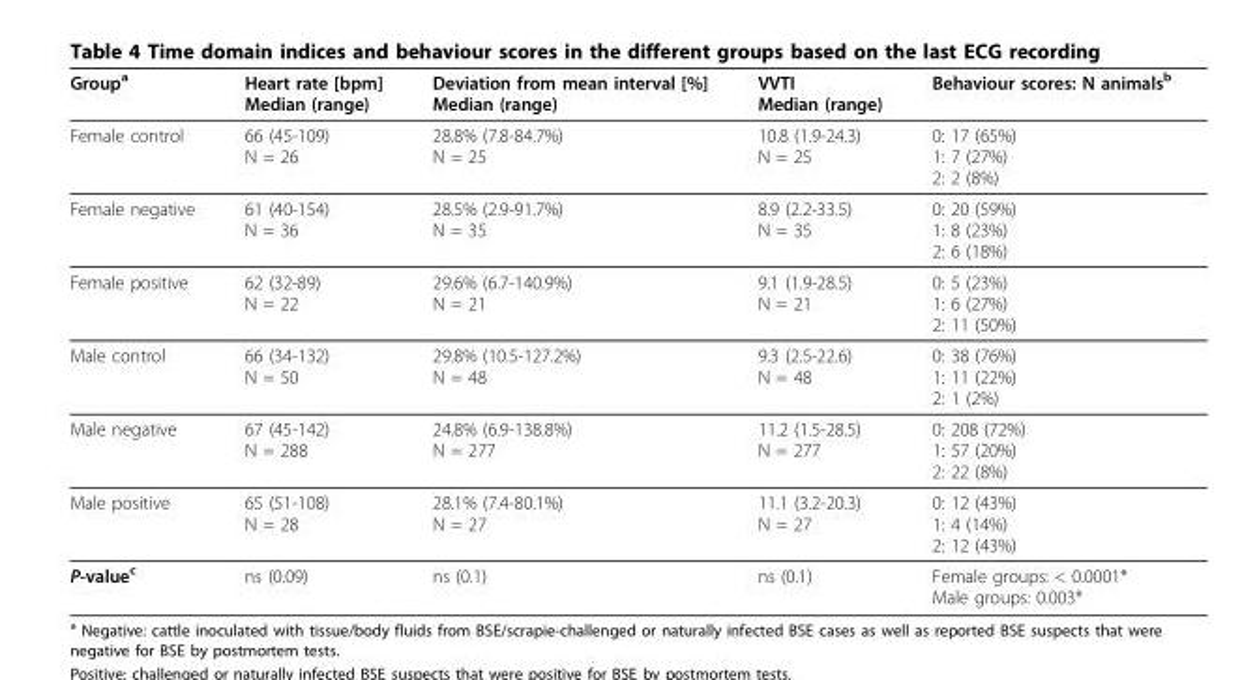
<table><thead><tr><td>Group<sup>a</sup></td><td>Heart rate [bpm] Median (range)</td><td>Deviation from mean interval [%] Median (range)</td><td>VVTI Median (range)</td><td>Behaviour scores: N animals<sup>b</sup></td></tr></thead><tbody><tr><td>Female control</td><td>66 (45-109) N = 26</td><td>28.8% (7.8-84.7%) N = 25</td><td>10.8 (1.9-24.3) N = 25</td><td>0: 17 (65%) 1: 7 (27%) 2: 2 (8%)</td></tr><tr><td>Female negative</td><td>61 (40-154) N = 36</td><td>28.5% (2.9-91.7%) N = 35</td><td>8.9 (2.2-33.5) N = 35</td><td>0: 20 (59%) 1: 8 (23%) 2: 6 (18%)</td></tr><tr><td>Female positive</td><td>62 (32-89) N = 22</td><td>29.6% (6.7-140.9%) N = 21</td><td>9.1 (1.9-28.5) N = 21</td><td>0: 5 (23%) 1: 6 (27%) 2: 11 (50%)</td></tr><tr><td>Male control</td><td>66 (34-132) N = 50</td><td>29.8% (10.5-127.2%) N = 48</td><td>9.3 (2.5-22.6) N = 48</td><td>0: 38 (76%) 1: 11 (22%) 2: 1 (2%)</td></tr><tr><td>Male negative</td><td>67 (45-142) N = 288</td><td>24.8% (6.9-138.8%) N = 277</td><td>11.2 (1.5-28.5) N = 277</td><td>0: 208 (72%) 1: 57 (20%) 2: 22 (8%)</td></tr><tr><td>Male positive</td><td>65 (51-108) N = 28</td><td>28.1% (7.4-80.1%) N = 27</td><td>11.1 (3.2-20.3) N = 27</td><td>0: 12 (43%) 1: 4 (14%) 2: 12 (43%)</td></tr><tr><td>P-value<sup>c</sup></td><td>ns (0.09)</td><td>ns (0.1)</td><td>ns (0.1)</td><td>Female groups: &lt; 0.0001* Male groups: 0.003*</td></tr></tbody></table>